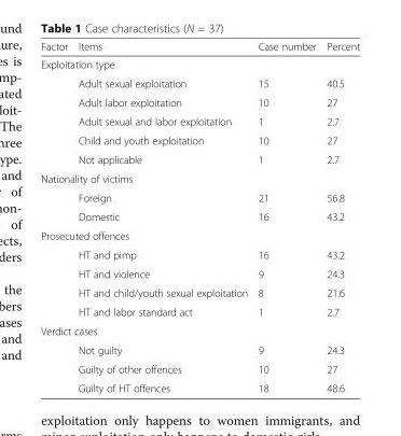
<table><thead><tr><td>Factor</td><td>Items</td><td>Case number</td><td>Percent</td></tr></thead><tbody><tr><td colspan="4">Exploitation type</td></tr><tr><td rowspan="5"></td><td>Adult sexual exploitation</td><td>15</td><td>40.5</td></tr><tr><td>Adult labor exploitation</td><td>10</td><td>27</td></tr><tr><td>Adult sexual and labor exploitation</td><td>1</td><td>2.7</td></tr><tr><td>Child and youth exploitation</td><td>10</td><td>27</td></tr><tr><td>Not applicable</td><td>1</td><td>2.7</td></tr><tr><td colspan="4">Nationality of victims</td></tr><tr><td rowspan="2"></td><td>Foreign</td><td>21</td><td>56.8</td></tr><tr><td>Domestic</td><td>16</td><td>43.2</td></tr><tr><td colspan="4">Prosecuted offences</td></tr><tr><td rowspan="4"></td><td>HT and pimp</td><td>16</td><td>43.2</td></tr><tr><td>HT and violence</td><td>9</td><td>24.3</td></tr><tr><td>HT and child/youth sexual exploitation</td><td>8</td><td>21.6</td></tr><tr><td>HT and labor standard act</td><td>1</td><td>2.7</td></tr><tr><td colspan="4">Verdict cases</td></tr><tr><td rowspan="3"></td><td>Not guilty</td><td>9</td><td>24.3</td></tr><tr><td>Guilty of other offences</td><td>10</td><td>27</td></tr><tr><td>Guilty of HT offences</td><td>18</td><td>48.6</td></tr></tbody></table>